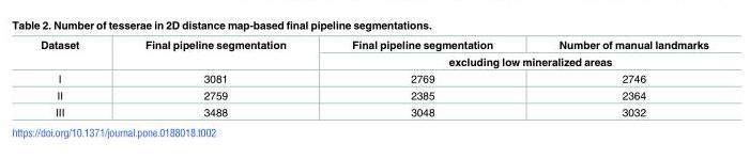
<table><thead><tr><td rowspan="2">Dataset</td><td rowspan="2">Final pipeline segmentation</td><td>Final pipeline segmentation</td><td>Number of manual landmarks</td></tr><tr><td colspan="2">excluding low mineralized areas</td></tr></thead><tbody><tr><td>I</td><td>3081</td><td>2769</td><td>2746</td></tr><tr><td>II</td><td>2759</td><td>2385</td><td>2364</td></tr><tr><td>III</td><td>3488</td><td>3048</td><td>3032</td></tr></tbody></table>